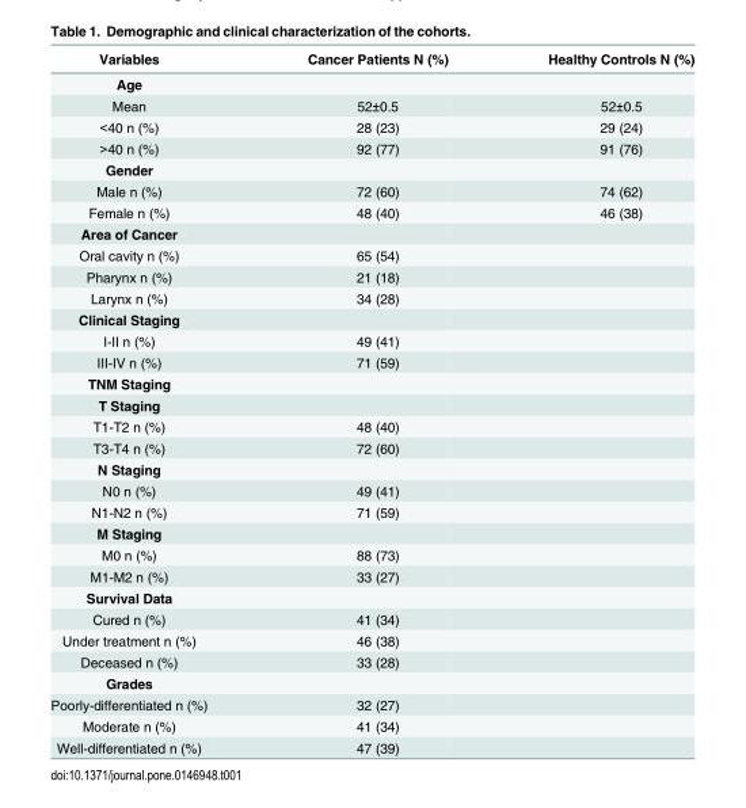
<table><thead><tr><td>Variables</td><td>Cancer Patients N (%)</td><td>Healthy Controls N (%)</td></tr></thead><tbody><tr><td colspan="3">Age</td></tr><tr><td>Mean</td><td>52±0.5</td><td>52±0.5</td></tr><tr><td>&lt;40 n (%)</td><td>28 (23)</td><td>29 (24)</td></tr><tr><td>&gt;40 n (%)</td><td>92 (77)</td><td>91 (76)</td></tr><tr><td colspan="3">Gender</td></tr><tr><td>Male n (%)</td><td>72 (60)</td><td>74 (62)</td></tr><tr><td>Female n (%)</td><td>48 (40)</td><td>46 (38)</td></tr><tr><td colspan="3">Area of Cancer</td></tr><tr><td>Oral cavity n (%)</td><td>65 (54)</td><td></td></tr><tr><td>Pharynx n (%)</td><td>21 (18)</td><td></td></tr><tr><td>Larynx n (%)</td><td>34 (28)</td><td></td></tr><tr><td colspan="3">Clinical Staging</td></tr><tr><td>I-II n (%)</td><td>49 (41)</td><td></td></tr><tr><td>III-IV n (%)</td><td>71 (59)</td><td></td></tr><tr><td colspan="3">TNM Staging</td></tr><tr><td colspan="3">T Staging</td></tr><tr><td>T1-T2 n (%)</td><td>48 (40)</td><td></td></tr><tr><td>T3-T4 n (%)</td><td>72 (60)</td><td></td></tr><tr><td colspan="3">N Staging</td></tr><tr><td>N0 n (%)</td><td>49 (41)</td><td></td></tr><tr><td>N1-N2 n (%)</td><td>71 (59)</td><td></td></tr><tr><td colspan="3">M Staging</td></tr><tr><td>M0 n (%)</td><td>88 (73)</td><td></td></tr><tr><td>M1-M2 n (%)</td><td>33 (27)</td><td></td></tr><tr><td colspan="3">Survival Data</td></tr><tr><td>Cured n (%)</td><td>41 (34)</td><td></td></tr><tr><td>Under treatment n (%)</td><td>46 (38)</td><td></td></tr><tr><td>Deceased n (%)</td><td>33 (28)</td><td></td></tr><tr><td colspan="3">Grades</td></tr><tr><td>Poorly-differentiated n (%)</td><td>32 (27)</td><td></td></tr><tr><td>Moderate n (%)</td><td>41 (34)</td><td></td></tr><tr><td>Well-differentiated n (%)</td><td>47 (39)</td><td></td></tr></tbody></table>